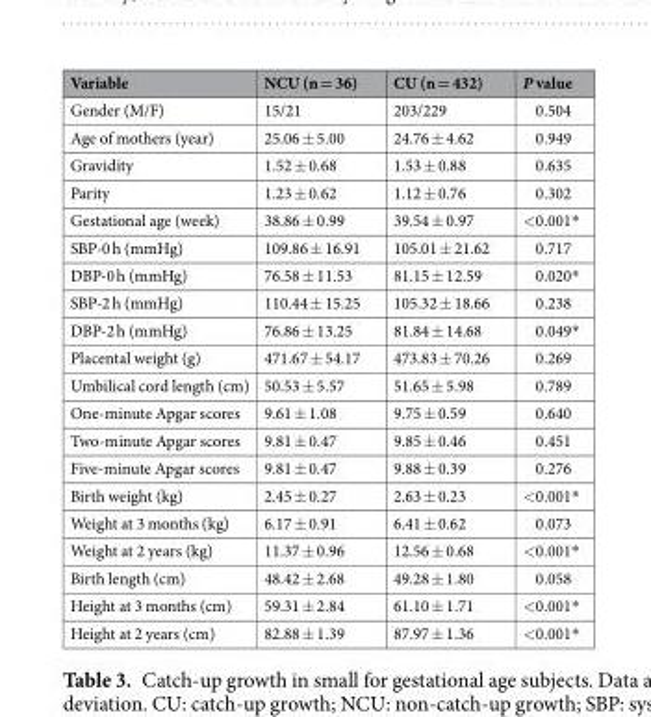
<table><thead><tr><td>Variable</td><td>NCU (n = 36)</td><td>CU (n = 432)</td><td>P value</td></tr></thead><tbody><tr><td>Gender (M/F)</td><td>15/21</td><td>203/229</td><td>0.504</td></tr><tr><td>Age of mothers (year)</td><td>25.06 ± 5.00</td><td>24.76 ± 4.62</td><td>0.949</td></tr><tr><td>Gravidity</td><td>1.52 ± 0.68</td><td>1.53 ± 0.88</td><td>0.635</td></tr><tr><td>Parity</td><td>1.23 ± 0.62</td><td>1.12 ± 0.76</td><td>0.302</td></tr><tr><td>Gestational age (week)</td><td>38.86 ± 0.99</td><td>39.54 ± 0.97</td><td>&lt;0.001*</td></tr><tr><td>SBP-0 h (mmHg)</td><td>109.86 ± 16.91</td><td>105.01 ± 21.62</td><td>0.717</td></tr><tr><td>DBP-0 h (mmHg)</td><td>76.58 ± 11.53</td><td>81.15 ± 12.59</td><td>0.020*</td></tr><tr><td>SBP-2 h (mmHg)</td><td>110.44 ± 15.25</td><td>105.32 ± 18.66</td><td>0.238</td></tr><tr><td>DBP-2 h (mmHg)</td><td>76.86 ± 13.25</td><td>81.84 ± 14.68</td><td>0.049*</td></tr><tr><td>Placental weight (g)</td><td>471.67 ± 54.17</td><td>473.83 ± 70.26</td><td>0.269</td></tr><tr><td>Umbilical cord length (cm)</td><td>50.53 ± 5.57</td><td>51.65 ± 5.98</td><td>0.789</td></tr><tr><td>One-minute Apgar scores</td><td>9.61 ± 1.08</td><td>9.75 ± 0.59</td><td>0.640</td></tr><tr><td>Two-minute Apgar scores</td><td>9.81 ± 0.47</td><td>9.85 ± 0.46</td><td>0.451</td></tr><tr><td>Five-minute Apgar scores</td><td>9.81 ± 0.47</td><td>9.88 ± 0.39</td><td>0.276</td></tr><tr><td>Birth weight (kg)</td><td>2.45 ± 0.27</td><td>2.63 ± 0.23</td><td>&lt;0.001*</td></tr><tr><td>Weight at 3 months (kg)</td><td>6.17 ± 0.91</td><td>6.41 ± 0.62</td><td>0.073</td></tr><tr><td>Weight at 2 years (kg)</td><td>11.37 ± 0.96</td><td>12.56 ± 0.68</td><td>&lt;0.001*</td></tr><tr><td>Birth length (cm)</td><td>48.42 ± 2.68</td><td>49.28 ± 1.80</td><td>0.058</td></tr><tr><td>Height at 3 months (cm)</td><td>59.31 ± 2.84</td><td>61.10 ± 1.71</td><td>&lt;0.001*</td></tr><tr><td>Height at 2 years (cm)</td><td>82.88 ± 1.39</td><td>87.97 ± 1.36</td><td>&lt;0.001*</td></tr></tbody></table>